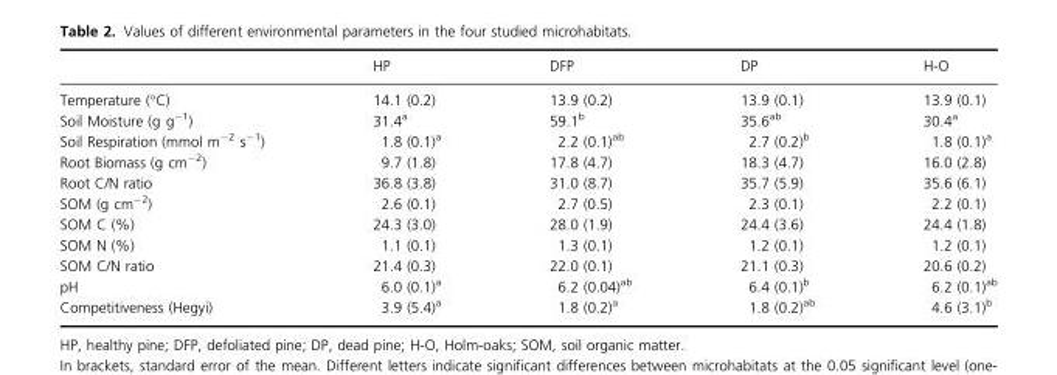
<table><thead><tr><td></td><td>HP</td><td>DFP</td><td>DP</td><td>H-O</td></tr></thead><tbody><tr><td>Temperature (°C)</td><td>14.1 (0.2)</td><td>13.9 (0.2)</td><td>13.9 (0.1)</td><td>13.9 (0.1)</td></tr><tr><td>Soil Moisture (g g<sup>−1</sup>)</td><td>31.4<sup>a</sup></td><td>59.1<sup>b</sup></td><td>35.6<sup>ab</sup></td><td>30.4<sup>a</sup></td></tr><tr><td>Soil Respiration (mmol m<sup>−2</sup> s<sup>−1</sup>)</td><td>1.8 (0.1)<sup>a</sup></td><td>2.2 (0.1)<sup>ab</sup></td><td>2.7 (0.2)<sup>b</sup></td><td>1.8 (0.1)<sup>a</sup></td></tr><tr><td>Root Biomass (g cm<sup>−2</sup>)</td><td>9.7 (1.8)</td><td>17.8 (4.7)</td><td>18.3 (4.7)</td><td>16.0 (2.8)</td></tr><tr><td>Root C/N ratio</td><td>36.8 (3.8)</td><td>31.0 (8.7)</td><td>35.7 (5.9)</td><td>35.6 (6.1)</td></tr><tr><td>SOM (g cm<sup>−2</sup>)</td><td>2.6 (0.1)</td><td>2.7 (0.5)</td><td>2.3 (0.1)</td><td>2.2 (0.1)</td></tr><tr><td>SOM C (%)</td><td>24.3 (3.0)</td><td>28.0 (1.9)</td><td>24.4 (3.6)</td><td>24.4 (1.8)</td></tr><tr><td>SOM N (%)</td><td>1.1 (0.1)</td><td>1.3 (0.1)</td><td>1.2 (0.1)</td><td>1.2 (0.1)</td></tr><tr><td>SOM C/N ratio</td><td>21.4 (0.3)</td><td>22.0 (0.1)</td><td>21.1 (0.3)</td><td>20.6 (0.2)</td></tr><tr><td>pH</td><td>6.0 (0.1)<sup>a</sup></td><td>6.2 (0.04)<sup>ab</sup></td><td>6.4 (0.1)<sup>b</sup></td><td>6.2 (0.1)<sup>ab</sup></td></tr><tr><td>Competitiveness (Hegyi)</td><td>3.9 (5.4)<sup>a</sup></td><td>1.8 (0.2)<sup>a</sup></td><td>1.8 (0.2)<sup>ab</sup></td><td>4.6 (3.1)<sup>b</sup></td></tr></tbody></table>